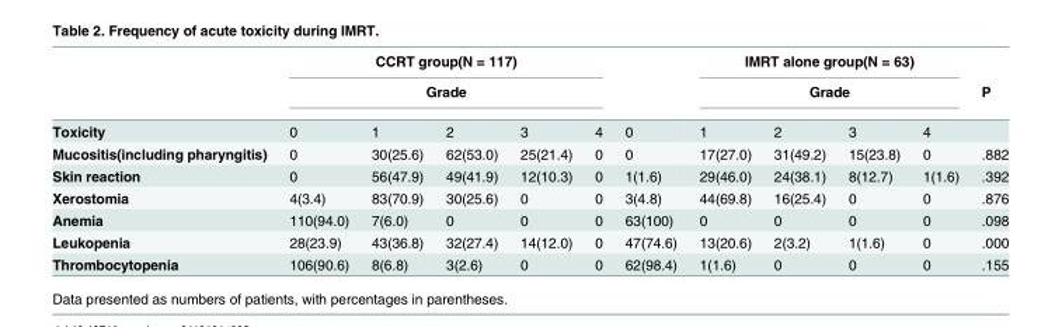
<table><thead><tr><td rowspan="3">Toxicity</td><td rowspan="2" colspan="5">CCRT group(N = 117) Grade</td><td rowspan="3">0</td><td rowspan="2" colspan="4">IMRT alone group(N = 63) Grade</td><td rowspan="3">P</td></tr><tr></tr><tr><td>0</td><td>1</td><td>2</td><td>3</td><td>4</td><td>1</td><td>2</td><td>3</td><td>4</td></tr></thead><tbody><tr><td>Mucositis(including pharyngitis)</td><td>0</td><td>30(25.6)</td><td>62(53.0)</td><td>25(21.4)</td><td>0</td><td>0</td><td>17(27.0)</td><td>31(49.2)</td><td>15(23.8)</td><td>0</td><td>.882</td></tr><tr><td>Skin reaction</td><td>0</td><td>56(47.9)</td><td>49(41.9)</td><td>12(10.3)</td><td>0</td><td>1(1.6)</td><td>29(46.0)</td><td>24(38.1)</td><td>8(12.7)</td><td>1(1.6)</td><td>.392</td></tr><tr><td>Xerostomia</td><td>4(3.4)</td><td>83(70.9)</td><td>30(25.6)</td><td>0</td><td>0</td><td>3(4.8)</td><td>44(69.8)</td><td>16(25.4)</td><td>0</td><td>0</td><td>.876</td></tr><tr><td>Anemia</td><td>110(94.0)</td><td>7(6.0)</td><td>0</td><td>0</td><td>0</td><td>63(100)</td><td>0</td><td>0</td><td>0</td><td>0</td><td>.098</td></tr><tr><td>Leukopenia</td><td>28(23.9)</td><td>43(36.8)</td><td>32(27.4)</td><td>14(12.0)</td><td>0</td><td>47(74.6)</td><td>13(20.6)</td><td>2(3.2)</td><td>1(1.6)</td><td>0</td><td>.000</td></tr><tr><td>Thrombocytopenia</td><td>106(90.6)</td><td>8(6.8)</td><td>3(2.6)</td><td>0</td><td>0</td><td>62(98.4)</td><td>1(1.6)</td><td>0</td><td>0</td><td>0</td><td>.155</td></tr></tbody></table>